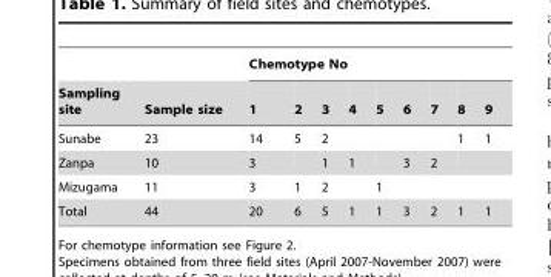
<table><thead><tr><td rowspan="2">Sampling site</td><td rowspan="2">Sample size</td><td colspan="9">Chemotype No</td></tr><tr><td>1</td><td>2</td><td>3</td><td>4</td><td>5</td><td>6</td><td>7</td><td>8</td><td>9</td></tr></thead><tbody><tr><td>Sunabe</td><td>23</td><td>14</td><td>5</td><td>2</td><td></td><td></td><td></td><td></td><td>1</td><td>1</td></tr><tr><td>Zanpa</td><td>10</td><td>3</td><td></td><td>1</td><td>1</td><td></td><td>3</td><td>2</td><td></td><td></td></tr><tr><td>Mizugama</td><td>11</td><td>3</td><td>1</td><td>2</td><td></td><td>1</td><td></td><td></td><td></td><td></td></tr><tr><td>Total</td><td>44</td><td>20</td><td>6</td><td>5</td><td>1</td><td>1</td><td>3</td><td>2</td><td>1</td><td>1</td></tr></tbody></table>